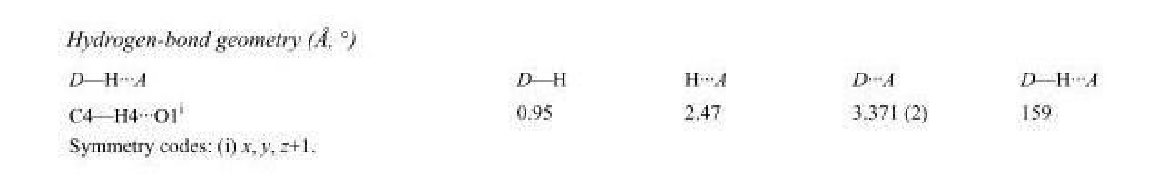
<table><tbody><tr><td>D—H···A</td><td>D—H</td><td>H···A</td><td>D···A</td><td>D—H···A</td></tr><tr><td>C4—H4···O1<sup>i</sup></td><td>0.95</td><td>2.47</td><td>3.371 (2)</td><td>159</td></tr></tbody></table>